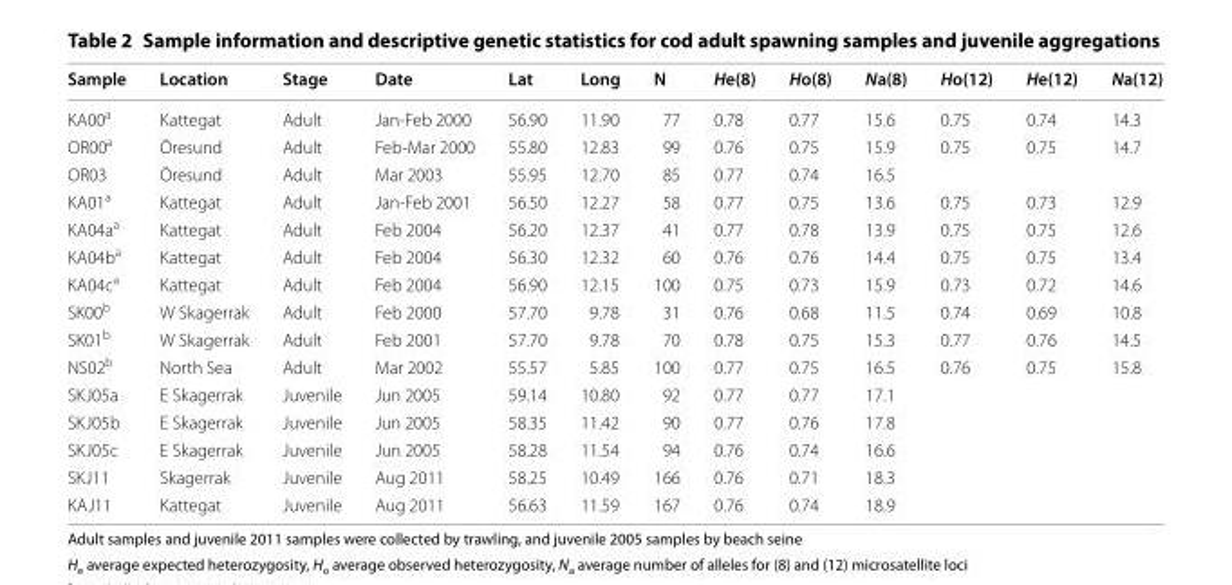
<table><thead><tr><td>Sample</td><td>Location</td><td>Stage</td><td>Date</td><td>Lat</td><td>Long</td><td>N</td><td>He(8)</td><td>Ho(8)</td><td>Na(8)</td><td>Ho(12)</td><td>He(12)</td><td>Na(12)</td></tr></thead><tbody><tr><td>KA00<sup>a</sup></td><td>Kattegat</td><td>Adult</td><td>Jan‑Feb 2000</td><td>56.90</td><td>11.90</td><td>77</td><td>0.78</td><td>0.77</td><td>15.6</td><td>0.75</td><td>0.74</td><td>14.3</td></tr><tr><td>OR00<sup>a</sup></td><td>Öresund</td><td>Adult</td><td>Feb‑Mar 2000</td><td>55.80</td><td>12.83</td><td>99</td><td>0.76</td><td>0.75</td><td>15.9</td><td>0.75</td><td>0.75</td><td>14.7</td></tr><tr><td>OR03</td><td>Öresund</td><td>Adult</td><td>Mar 2003</td><td>55.95</td><td>12.70</td><td>85</td><td>0.77</td><td>0.74</td><td>16.5</td><td></td><td></td><td></td></tr><tr><td>KA01<sup>a</sup></td><td>Kattegat</td><td>Adult</td><td>Jan‑Feb 2001</td><td>56.50</td><td>12.27</td><td>58</td><td>0.77</td><td>0.75</td><td>13.6</td><td>0.75</td><td>0.73</td><td>12.9</td></tr><tr><td>KA04a<sup>a</sup></td><td>Kattegat</td><td>Adult</td><td>Feb 2004</td><td>56.20</td><td>12.37</td><td>41</td><td>0.77</td><td>0.78</td><td>13.9</td><td>0.75</td><td>0.75</td><td>12.6</td></tr><tr><td>KA04b<sup>a</sup></td><td>Kattegat</td><td>Adult</td><td>Feb 2004</td><td>56.30</td><td>12.32</td><td>60</td><td>0.76</td><td>0.76</td><td>14.4</td><td>0.75</td><td>0.75</td><td>13.4</td></tr><tr><td>KA04c<sup>a</sup></td><td>Kattegat</td><td>Adult</td><td>Feb 2004</td><td>56.90</td><td>12.15</td><td>100</td><td>0.75</td><td>0.73</td><td>15.9</td><td>0.73</td><td>0.72</td><td>14.6</td></tr><tr><td>SK00<sup>b</sup></td><td>W Skagerrak</td><td>Adult</td><td>Feb 2000</td><td>57.70</td><td>9.78</td><td>31</td><td>0.76</td><td>0.68</td><td>11.5</td><td>0.74</td><td>0.69</td><td>10.8</td></tr><tr><td>SK01<sup>b</sup></td><td>W Skagerrak</td><td>Adult</td><td>Feb 2001</td><td>57.70</td><td>9.78</td><td>70</td><td>0.78</td><td>0.75</td><td>15.3</td><td>0.77</td><td>0.76</td><td>14.5</td></tr><tr><td>NS02<sup>b</sup></td><td>North Sea</td><td>Adult</td><td>Mar 2002</td><td>55.57</td><td>5.85</td><td>100</td><td>0.77</td><td>0.75</td><td>16.5</td><td>0.76</td><td>0.75</td><td>15.8</td></tr><tr><td>SKJ05a</td><td>E Skagerrak</td><td>Juvenile</td><td>Jun 2005</td><td>59.14</td><td>10.80</td><td>92</td><td>0.77</td><td>0.77</td><td>17.1</td><td></td><td></td><td></td></tr><tr><td>SKJ05b</td><td>E Skagerrak</td><td>Juvenile</td><td>Jun 2005</td><td>58.35</td><td>11.42</td><td>90</td><td>0.77</td><td>0.76</td><td>17.8</td><td></td><td></td><td></td></tr><tr><td>SKJ05c</td><td>E Skagerrak</td><td>Juvenile</td><td>Jun 2005</td><td>58.28</td><td>11.54</td><td>94</td><td>0.76</td><td>0.74</td><td>16.6</td><td></td><td></td><td></td></tr><tr><td>SKJ11</td><td>Skagerrak</td><td>Juvenile</td><td>Aug 2011</td><td>58.25</td><td>10.49</td><td>166</td><td>0.76</td><td>0.71</td><td>18.3</td><td></td><td></td><td></td></tr><tr><td>KAJ11</td><td>Kattegat</td><td>Juvenile</td><td>Aug 2011</td><td>56.63</td><td>11.59</td><td>167</td><td>0.76</td><td>0.74</td><td>18.9</td><td></td><td></td><td></td></tr></tbody></table>